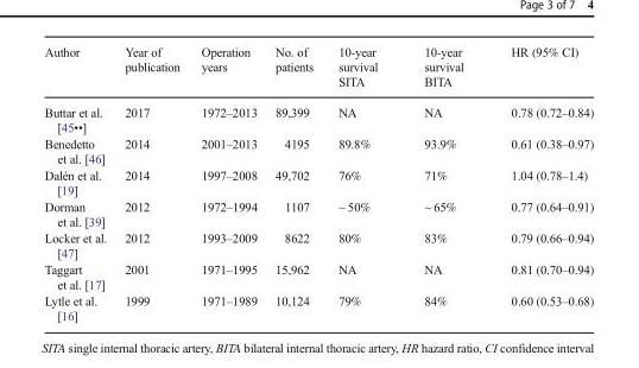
<table><thead><tr><td>Author</td><td>Year of publication</td><td>Operation years</td><td>No. of patients</td><td>10-year survival SITA</td><td>10-year survival BITA</td><td>HR (95% CI)</td></tr></thead><tbody><tr><td>Buttar et al. [45••]</td><td>2017</td><td>1972–2013</td><td>89,399</td><td>NA</td><td>NA</td><td>0.78 (0.72–0.84)</td></tr><tr><td>Benedetto et al. [46]</td><td>2014</td><td>2001–2013</td><td>4195</td><td>89.8%</td><td>93.9%</td><td>0.61 (0.38–0.97)</td></tr><tr><td>Dalén et al. [19]</td><td>2014</td><td>1997–2008</td><td>49,702</td><td>76%</td><td>71%</td><td>1.04 (0.78–1.4)</td></tr><tr><td>Dorman et al. [39]</td><td>2012</td><td>1972–1994</td><td>1107</td><td>~ 50%</td><td>~ 65%</td><td>0.77 (0.64–0.91)</td></tr><tr><td>Locker et al. [47]</td><td>2012</td><td>1993–2009</td><td>8622</td><td>80%</td><td>83%</td><td>0.79 (0.66–0.94)</td></tr><tr><td>Taggart et al. [17]</td><td>2001</td><td>1971–1995</td><td>15,962</td><td>NA</td><td>NA</td><td>0.81 (0.70–0.94)</td></tr><tr><td>Lytle et al. [16]</td><td>1999</td><td>1971–1989</td><td>10,124</td><td>79%</td><td>84%</td><td>0.60 (0.53–0.68)</td></tr></tbody></table>